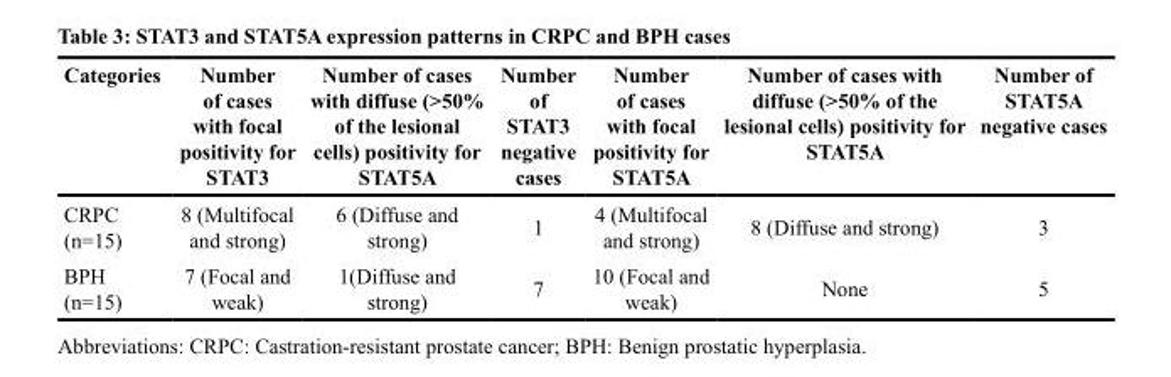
<table><thead><tr><td>Categories</td><td>Number of cases with focal positivity for STAT3</td><td>Number of cases with diffuse (&gt;50% of the lesional cells) positivity for STAT5A</td><td>Number of STAT3 negative cases</td><td>Number of cases with focal positivity for STAT5A</td><td>Number of cases with diffuse (&gt;50% of the lesional cells) positivity for STAT5A</td><td>Number of STAT5A negative cases</td></tr></thead><tbody><tr><td>CRPC (n=15)</td><td>8 (Multifocal and strong)</td><td>6 (Diffuse and strong)</td><td>1</td><td>4 (Multifocal and strong)</td><td>8 (Diffuse and strong)</td><td>3</td></tr><tr><td>BPH (n=15)</td><td>7 (Focal and weak)</td><td>1(Diffuse and strong)</td><td>7</td><td>10 (Focal and weak)</td><td>None</td><td>5</td></tr></tbody></table>